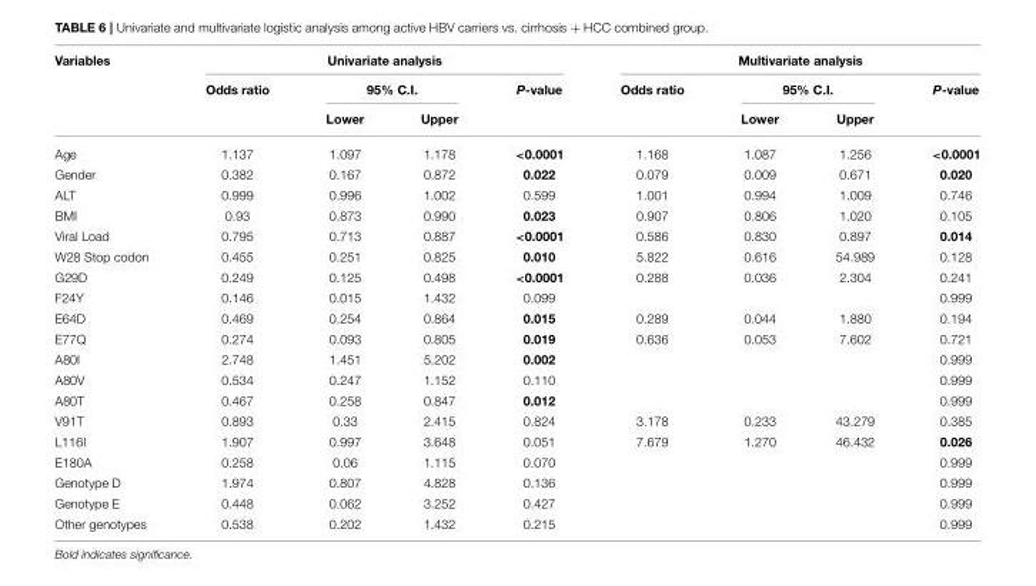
<table><thead><tr><td rowspan="3">Variables</td><td colspan="4">Univariate analysis</td><td colspan="4">Multivariate analysis</td></tr><tr><td rowspan="2">Odds ratio</td><td colspan="2">95% C.I.</td><td rowspan="2">P-value</td><td rowspan="2">Odds ratio</td><td colspan="2">95% C.I.</td><td rowspan="2">P-value</td></tr><tr><td>Lower</td><td>Upper</td><td>Lower</td><td>Upper</td></tr></thead><tbody><tr><td>Age</td><td>1.137</td><td>1.097</td><td>1.178</td><td>&lt;0.0001</td><td>1.168</td><td>1.087</td><td>1.256</td><td>&lt;0.0001</td></tr><tr><td>Gender</td><td>0.382</td><td>0.167</td><td>0.872</td><td>0.022</td><td>0.079</td><td>0.009</td><td>0.671</td><td>0.020</td></tr><tr><td>ALT</td><td>0.999</td><td>0.996</td><td>1.002</td><td>0.599</td><td>1.001</td><td>0.994</td><td>1.009</td><td>0.746</td></tr><tr><td>BMI</td><td>0.93</td><td>0.873</td><td>0.990</td><td>0.023</td><td>0.907</td><td>0.806</td><td>1.020</td><td>0.105</td></tr><tr><td>Viral Load</td><td>0.795</td><td>0.713</td><td>0.887</td><td>&lt;0.0001</td><td>0.586</td><td>0.830</td><td>0.897</td><td>0.014</td></tr><tr><td>W28 Stop codon</td><td>0.455</td><td>0.251</td><td>0.825</td><td>0.010</td><td>5.822</td><td>0.616</td><td>54.989</td><td>0.128</td></tr><tr><td>G29D</td><td>0.249</td><td>0.125</td><td>0.498</td><td>&lt;0.0001</td><td>0.288</td><td>0.036</td><td>2.304</td><td>0.241</td></tr><tr><td>F24Y</td><td>0.146</td><td>0.015</td><td>1.432</td><td>0.099</td><td></td><td></td><td></td><td>0.999</td></tr><tr><td>E64D</td><td>0.469</td><td>0.254</td><td>0.864</td><td>0.015</td><td>0.289</td><td>0.044</td><td>1.880</td><td>0.194</td></tr><tr><td>E77Q</td><td>0.274</td><td>0.093</td><td>0.805</td><td>0.019</td><td>0.636</td><td>0.053</td><td>7.602</td><td>0.721</td></tr><tr><td>A80I</td><td>2.748</td><td>1.451</td><td>5.202</td><td>0.002</td><td></td><td></td><td></td><td>0.999</td></tr><tr><td>A80V</td><td>0.534</td><td>0.247</td><td>1.152</td><td>0.110</td><td></td><td></td><td></td><td>0.999</td></tr><tr><td>A80T</td><td>0.467</td><td>0.258</td><td>0.847</td><td>0.012</td><td></td><td></td><td></td><td>0.999</td></tr><tr><td>V91T</td><td>0.893</td><td>0.33</td><td>2.415</td><td>0.824</td><td>3.178</td><td>0.233</td><td>43.279</td><td>0.385</td></tr><tr><td>L116I</td><td>1.907</td><td>0.997</td><td>3.648</td><td>0.051</td><td>7.679</td><td>1.270</td><td>46.432</td><td>0.026</td></tr><tr><td>E180A</td><td>0.258</td><td>0.06</td><td>1.115</td><td>0.070</td><td></td><td></td><td></td><td>0.999</td></tr><tr><td>Genotype D</td><td>1.974</td><td>0.807</td><td>4.828</td><td>0.136</td><td></td><td></td><td></td><td>0.999</td></tr><tr><td>Genotype E</td><td>0.448</td><td>0.062</td><td>3.252</td><td>0.427</td><td></td><td></td><td></td><td>0.999</td></tr><tr><td>Other genotypes</td><td>0.538</td><td>0.202</td><td>1.432</td><td>0.215</td><td></td><td></td><td></td><td>0.999</td></tr></tbody></table>